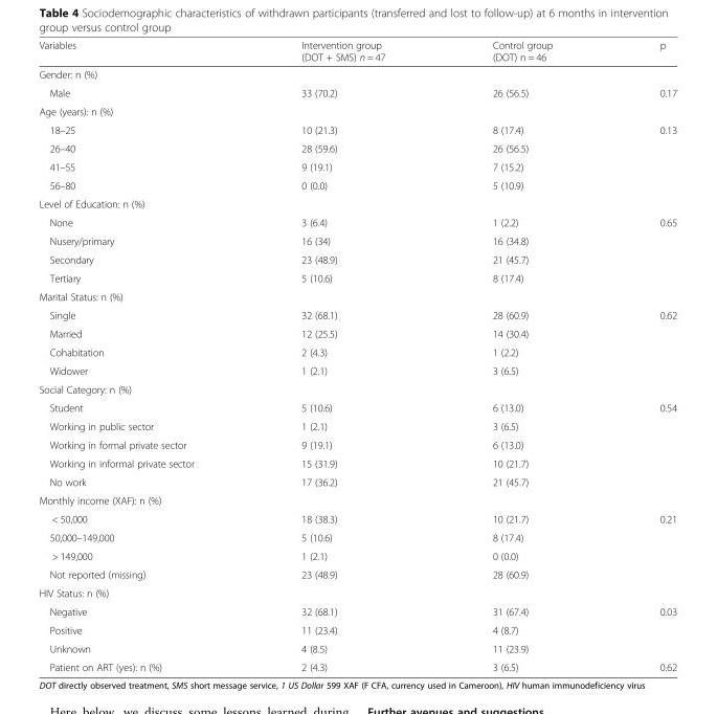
<table><thead><tr><td>Variables</td><td>Intervention group (DOT + SMS) n = 47</td><td>Control group (DOT) n = 46</td><td>p</td></tr></thead><tbody><tr><td colspan="4">Gender: n (%)</td></tr><tr><td>Male</td><td>33 (70.2)</td><td>26 (56.5)</td><td>0.17</td></tr><tr><td colspan="4">Age (years): n (%)</td></tr><tr><td>18–25</td><td>10 (21.3)</td><td>8 (17.4)</td><td rowspan="4">0.13</td></tr><tr><td>26–40</td><td>28 (59.6)</td><td>26 (56.5)</td></tr><tr><td>41–55</td><td>9 (19.1)</td><td>7 (15.2)</td></tr><tr><td>56–80</td><td>0 (0.0)</td><td>5 (10.9)</td></tr><tr><td colspan="4">Level of Education: n (%)</td></tr><tr><td>None</td><td>3 (6.4)</td><td>1 (2.2)</td><td rowspan="4">0.65</td></tr><tr><td>Nusery/primary</td><td>16 (34)</td><td>16 (34.8)</td></tr><tr><td>Secondary</td><td>23 (48.9)</td><td>21 (45.7)</td></tr><tr><td>Tertiary</td><td>5 (10.6)</td><td>8 (17.4)</td></tr><tr><td colspan="4">Marital Status: n (%)</td></tr><tr><td>Single</td><td>32 (68.1)</td><td>28 (60.9)</td><td rowspan="4">0.62</td></tr><tr><td>Married</td><td>12 (25.5)</td><td>14 (30.4)</td></tr><tr><td>Cohabitation</td><td>2 (4.3)</td><td>1 (2.2)</td></tr><tr><td>Widower</td><td>1 (2.1)</td><td>3 (6.5)</td></tr><tr><td colspan="4">Social Category: n (%)</td></tr><tr><td>Student</td><td>5 (10.6)</td><td>6 (13.0)</td><td rowspan="5">0.54</td></tr><tr><td>Working in public sector</td><td>1 (2.1)</td><td>3 (6.5)</td></tr><tr><td>Working in formal private sector</td><td>9 (19.1)</td><td>6 (13.0)</td></tr><tr><td>Working in informal private sector</td><td>15 (31.9)</td><td>10 (21.7)</td></tr><tr><td>No work</td><td>17 (36.2)</td><td>21 (45.7)</td></tr><tr><td colspan="4">Monthly income (XAF): n (%)</td></tr><tr><td>&lt; 50,000</td><td>18 (38.3)</td><td>10 (21.7)</td><td rowspan="4">0.21</td></tr><tr><td>50,000–149,000</td><td>5 (10.6)</td><td>8 (17.4)</td></tr><tr><td>&gt; 149,000</td><td>1 (2.1)</td><td>0 (0.0)</td></tr><tr><td>Not reported (missing)</td><td>23 (48.9)</td><td>28 (60.9)</td></tr><tr><td colspan="4">HIV Status: n (%)</td></tr><tr><td>Negative</td><td>32 (68.1)</td><td>31 (67.4)</td><td rowspan="3">0.03</td></tr><tr><td>Positive</td><td>11 (23.4)</td><td>4 (8.7)</td></tr><tr><td>Unknown</td><td>4 (8.5)</td><td>11 (23.9)</td></tr><tr><td>Patient on ART (yes): n (%)</td><td>2 (4.3)</td><td>3 (6.5)</td><td>0.62</td></tr></tbody></table>